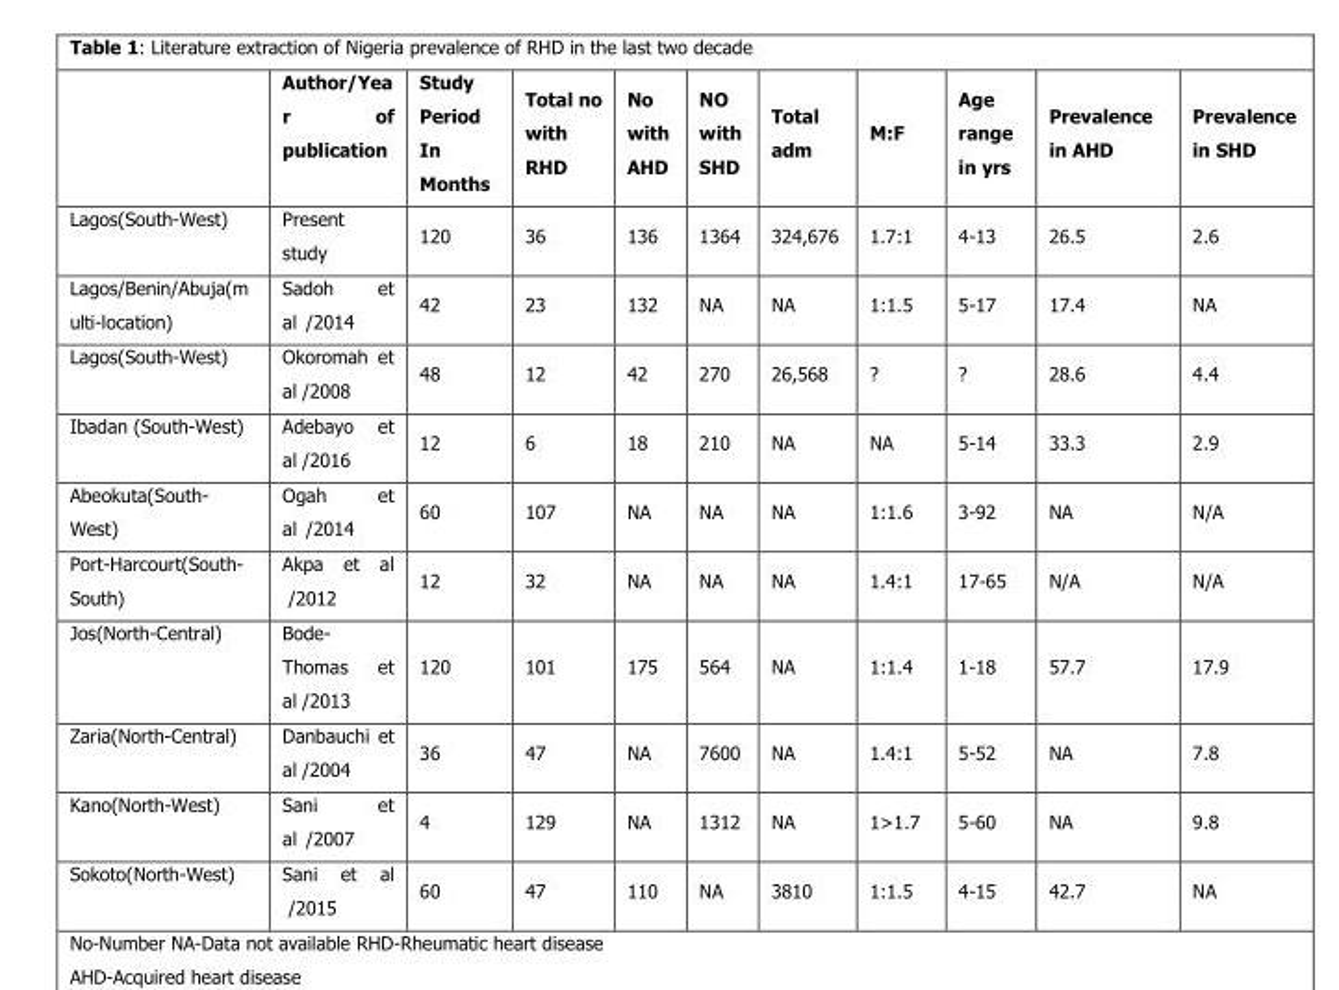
<table><thead><tr><td></td><td>Author/Yea r of publication</td><td>Study Period In Months</td><td>Total no with RHD</td><td>No with AHD</td><td>NO with SHD</td><td>Total adm</td><td>M:F</td><td>Age range in yrs</td><td>Prevalence in AHD</td><td>Prevalence in SHD</td></tr></thead><tbody><tr><td>Lagos(South-West)</td><td>Present study</td><td>120</td><td>36</td><td>136</td><td>1364</td><td>324,676</td><td>1.7:1</td><td>4-13</td><td>26.5</td><td>2.6</td></tr><tr><td>Lagos/Benin/Abuja(m ulti-location)</td><td>Sadoh et al /2014</td><td>42</td><td>23</td><td>132</td><td>NA</td><td>NA</td><td>1:1.5</td><td>5-17</td><td>17.4</td><td>NA</td></tr><tr><td>Lagos(South-West)</td><td>Okoromah et al /2008</td><td>48</td><td>12</td><td>42</td><td>270</td><td>26,568</td><td>?</td><td>?</td><td>28.6</td><td>4.4</td></tr><tr><td>Ibadan (South-West)</td><td>Adebayo et al /2016</td><td>12</td><td>6</td><td>18</td><td>210</td><td>NA</td><td>NA</td><td>5-14</td><td>33.3</td><td>2.9</td></tr><tr><td>Abeokuta(South- West)</td><td>Ogah et al /2014</td><td>60</td><td>107</td><td>NA</td><td>NA</td><td>NA</td><td>1:1.6</td><td>3-92</td><td>NA</td><td>N/A</td></tr><tr><td>Port-Harcourt(South- South)</td><td>Akpa et al /2012</td><td>12</td><td>32</td><td>NA</td><td>NA</td><td>NA</td><td>1.4:1</td><td>17-65</td><td>N/A</td><td>N/A</td></tr><tr><td>Jos(North-Central)</td><td>Bode- Thomas et al /2013</td><td>120</td><td>101</td><td>175</td><td>564</td><td>NA</td><td>1:1.4</td><td>1-18</td><td>57.7</td><td>17.9</td></tr><tr><td>Zaria(North-Central)</td><td>Danbauchi et al /2004</td><td>36</td><td>47</td><td>NA</td><td>7600</td><td>NA</td><td>1.4:1</td><td>5-52</td><td>NA</td><td>7.8</td></tr><tr><td>Kano(North-West)</td><td>Sani et al /2007</td><td>4</td><td>129</td><td>NA</td><td>1312</td><td>NA</td><td>1&gt;1.7</td><td>5-60</td><td>NA</td><td>9.8</td></tr><tr><td>Sokoto(North-West)</td><td>Sani et al /2015</td><td>60</td><td>47</td><td>110</td><td>NA</td><td>3810</td><td>1:1.5</td><td>4-15</td><td>42.7</td><td>NA</td></tr></tbody></table>